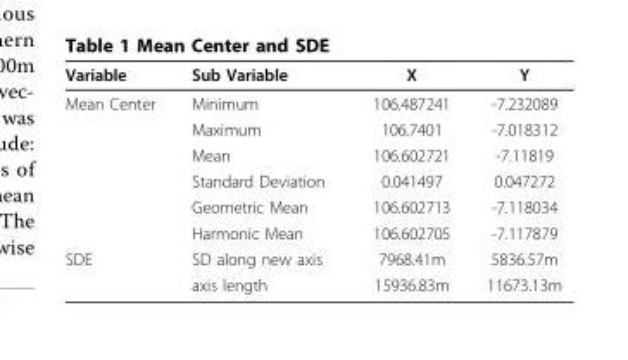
<table><thead><tr><td>Variable</td><td>Sub Variable</td><td>X</td><td>Y</td></tr></thead><tbody><tr><td rowspan="6">Mean Center</td><td>Minimum</td><td>106.487241</td><td>-7.232089</td></tr><tr><td>Maximum</td><td>106.7401</td><td>-7.018312</td></tr><tr><td>Mean</td><td>106.602721</td><td>-7.11819</td></tr><tr><td>Standard Deviation</td><td>0.041497</td><td>0.047272</td></tr><tr><td>Geometric Mean</td><td>106.602713</td><td>-7.118034</td></tr><tr><td>Harmonic Mean</td><td>106.602705</td><td>-7.117879</td></tr><tr><td rowspan="2">SDE</td><td>SD along new axis</td><td>7968.41m</td><td>5836.57m</td></tr><tr><td>axis length</td><td>15936.83m</td><td>11673.13m</td></tr></tbody></table>